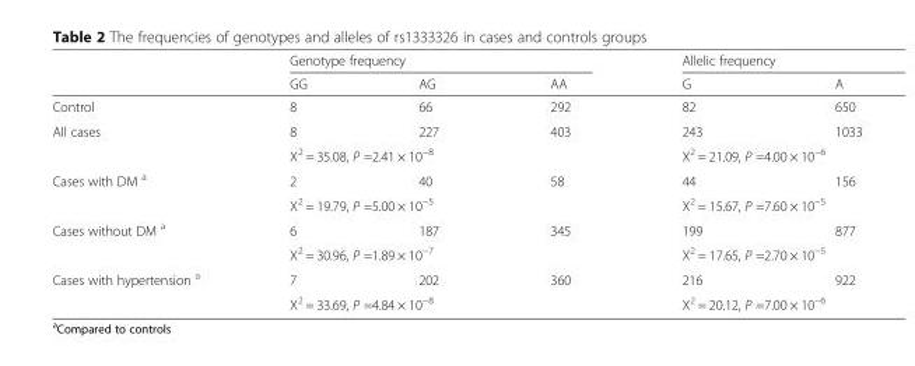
<table><thead><tr><td rowspan="2"></td><td colspan="3">Genotype frequency</td><td colspan="2">Allelic frequency</td></tr><tr><td>GG</td><td>AG</td><td>AA</td><td>G</td><td>A</td></tr></thead><tbody><tr><td>Control</td><td>8</td><td>66</td><td>292</td><td>82</td><td>650</td></tr><tr><td rowspan="2">All cases</td><td>8</td><td>227</td><td>403</td><td>243</td><td>1033</td></tr><tr><td colspan="3">X<sup>2</sup> = 35.08, P =2.41 × 10<sup>−8</sup></td><td colspan="2">X<sup>2</sup> = 21.09, P =4.00 × 10<sup>−6</sup></td></tr><tr><td rowspan="2">Cases with DM <sup>a</sup></td><td>2</td><td>40</td><td>58</td><td>44</td><td>156</td></tr><tr><td colspan="3">X<sup>2</sup> = 19.79, P =5.00 × 10<sup>−5</sup></td><td colspan="2">X<sup>2</sup> = 15.67, P =7.60 × 10<sup>−5</sup></td></tr><tr><td rowspan="2">Cases without DM <sup>a</sup></td><td>6</td><td>187</td><td>345</td><td>199</td><td>877</td></tr><tr><td colspan="3">X<sup>2</sup> = 30.96, P =1.89 × 10<sup>−7</sup></td><td colspan="2">X<sup>2</sup> = 17.65, P =2.70 × 10<sup>−5</sup></td></tr><tr><td rowspan="2">Cases with hypertension <sup>a</sup></td><td>7</td><td>202</td><td>360</td><td>216</td><td>922</td></tr><tr><td colspan="3">X<sup>2</sup> = 33.69, P =4.84 × 10<sup>−8</sup></td><td colspan="2">X<sup>2</sup> = 20.12, P =7.00 × 10<sup>−6</sup></td></tr></tbody></table>